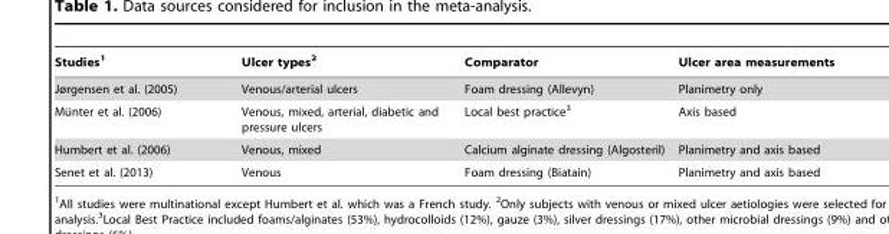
<table><thead><tr><td>Studies<sup>1</sup></td><td>Ulcer types<sup>2</sup></td><td>Comparator</td><td>Ulcer area measurements</td></tr></thead><tbody><tr><td>Jørgensen et al. (2005)</td><td>Venous/arterial ulcers</td><td>Foam dressing (Allevyn)</td><td>Planimetry only</td></tr><tr><td>Mu¨nter et al. (2006)</td><td>Venous, mixed, arterial, diabetic and pressure ulcers</td><td>Local best practice<sup>3</sup></td><td>Axis based</td></tr><tr><td>Humbert et al. (2006)</td><td>Venous, mixed</td><td>Calcium alginate dressing (Algosteril)</td><td>Planimetry and axis based</td></tr><tr><td>Senet et al. (2013)</td><td>Venous</td><td>Foam dressing (Biatain)</td><td>Planimetry and axis based</td></tr></tbody></table>